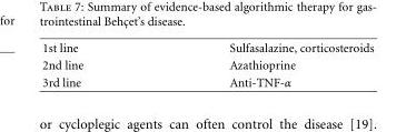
<table><tbody><tr><td>1st line</td><td>Sulfasalazine, corticosteroids</td></tr><tr><td>2nd line</td><td>Azathioprine</td></tr><tr><td>3rd line</td><td>Anti-TNF-α</td></tr></tbody></table>